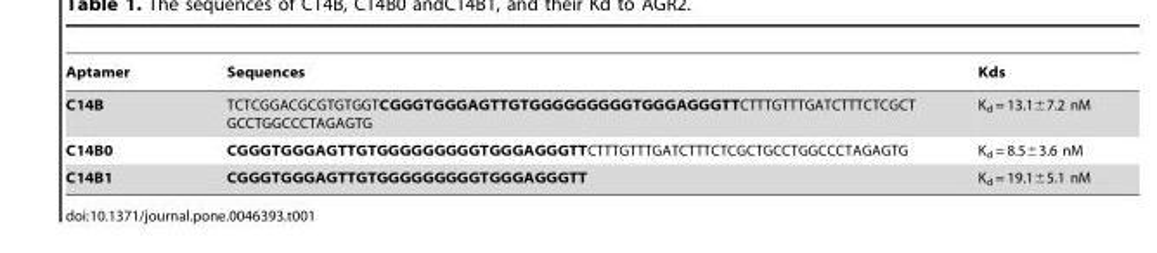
<table><thead><tr><td>Aptamer</td><td>Sequences</td><td>Kds</td></tr></thead><tbody><tr><td>C14B</td><td>TCTCGGACGCGTGTGGTCGGGTGGGAGTTGTGGGGGGGGGTGGGAGGGTTCTTTGTTTGATCTTTCTCGCT GCCTGGCCCTAGAGTG</td><td>K<sub>d</sub> = 13.1±7.2 nM</td></tr><tr><td>C14B0</td><td>CGGGTGGGAGTTGTGGGGGGGGGTGGGAGGGTTCTTTGTTTGATCTTTCTCGCTGCCTGGCCCTAGAGTG</td><td>K<sub>d</sub> = 8.5±3.6 nM</td></tr><tr><td>C14B1</td><td>CGGGTGGGAGTTGTGGGGGGGGGTGGGAGGGTT</td><td>K<sub>d</sub> = 19.1±5.1 nM</td></tr></tbody></table>